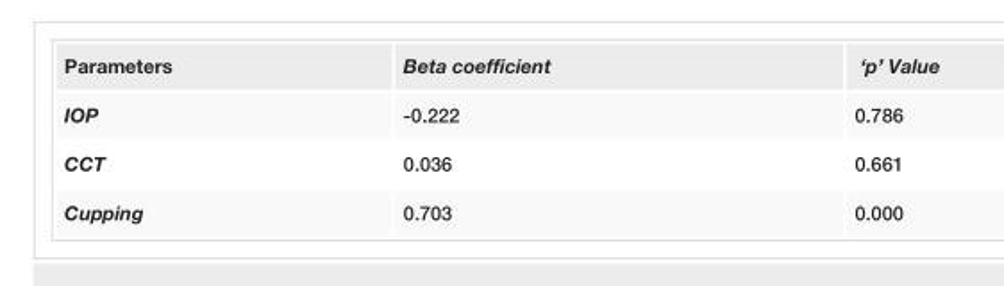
<table><tbody><tr><td>Parameters</td><td>Beta coefficient</td><td>‘p’ Value</td></tr><tr><td>IOP</td><td>-0.222</td><td>0.786</td></tr><tr><td>CCT</td><td>0.036</td><td>0.661</td></tr><tr><td>Cupping</td><td>0.703</td><td>0.000</td></tr></tbody></table>